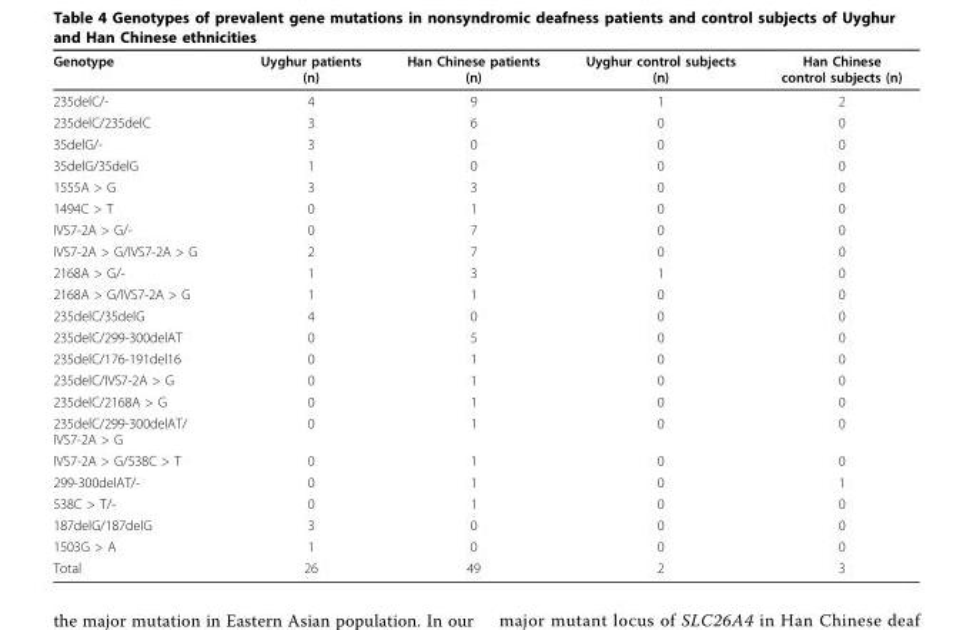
<table><thead><tr><td>Genotype</td><td>Uyghur patients (n)</td><td>Han Chinese patients (n)</td><td>Uyghur control subjects (n)</td><td>Han Chinese control subjects (n)</td></tr></thead><tbody><tr><td>235delC/-</td><td>4</td><td>9</td><td>1</td><td>2</td></tr><tr><td>235delC/235delC</td><td>3</td><td>6</td><td>0</td><td>0</td></tr><tr><td>35delG/-</td><td>3</td><td>0</td><td>0</td><td>0</td></tr><tr><td>35delG/35delG</td><td>1</td><td>0</td><td>0</td><td>0</td></tr><tr><td>1555A &gt; G</td><td>3</td><td>3</td><td>0</td><td>0</td></tr><tr><td>1494C &gt; T</td><td>0</td><td>1</td><td>0</td><td>0</td></tr><tr><td>IVS7-2A &gt; G/-</td><td>0</td><td>7</td><td>0</td><td>0</td></tr><tr><td>IVS7-2A &gt; G/IVS7-2A &gt; G</td><td>2</td><td>7</td><td>0</td><td>0</td></tr><tr><td>2168A &gt; G/-</td><td>1</td><td>3</td><td>1</td><td>0</td></tr><tr><td>2168A &gt; G/IVS7-2A &gt; G</td><td>1</td><td>1</td><td>0</td><td>0</td></tr><tr><td>235delC/35delG</td><td>4</td><td>0</td><td>0</td><td>0</td></tr><tr><td>235delC/299-300delAT</td><td>0</td><td>5</td><td>0</td><td>0</td></tr><tr><td>235delC/176-191del16</td><td>0</td><td>1</td><td>0</td><td>0</td></tr><tr><td>235delC/IVS7-2A &gt; G</td><td>0</td><td>1</td><td>0</td><td>0</td></tr><tr><td>235delC/2168A &gt; G</td><td>0</td><td>1</td><td>0</td><td>0</td></tr><tr><td>235delC/299-300delAT/ IVS7-2A &gt; G</td><td>0</td><td>1</td><td>0</td><td>0</td></tr><tr><td>IVS7-2A &gt; G/538C &gt; T</td><td>0</td><td>1</td><td>0</td><td>0</td></tr><tr><td>299-300delAT/-</td><td>0</td><td>1</td><td>0</td><td>1</td></tr><tr><td>538C &gt; T/-</td><td>0</td><td>1</td><td>0</td><td>0</td></tr><tr><td>187delG/187delG</td><td>3</td><td>0</td><td>0</td><td>0</td></tr><tr><td>1503G &gt; A</td><td>1</td><td>0</td><td>0</td><td>0</td></tr><tr><td>Total</td><td>26</td><td>49</td><td>2</td><td>3</td></tr></tbody></table>